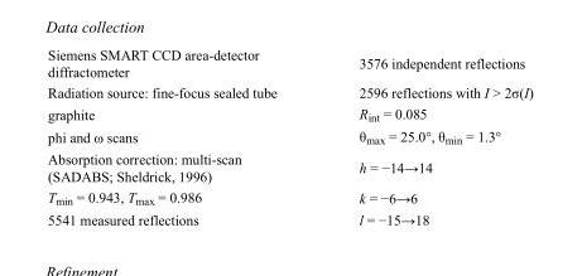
<table><tbody><tr><td>Siemens SMART CCD area-detector diffractometer</td><td>3576 independent reflections</td></tr><tr><td>Radiation source: fine-focus sealed tube</td><td>2596 reflections with I &gt; 2σ(I)</td></tr><tr><td>graphite</td><td>R<sub>int</sub> = 0.085</td></tr><tr><td>phi and ω scans</td><td>θ<sub>max</sub> = 25.0°, θ<sub>min</sub> = 1.3°</td></tr><tr><td>Absorption correction: multi-scan (SADABS; Sheldrick, 1996)</td><td>h = −14→14</td></tr><tr><td>T<sub>min</sub> = 0.943, T<sub>max</sub> = 0.986</td><td>k = −6→6</td></tr><tr><td>5541 measured reflections</td><td>l = −15→18</td></tr></tbody></table>